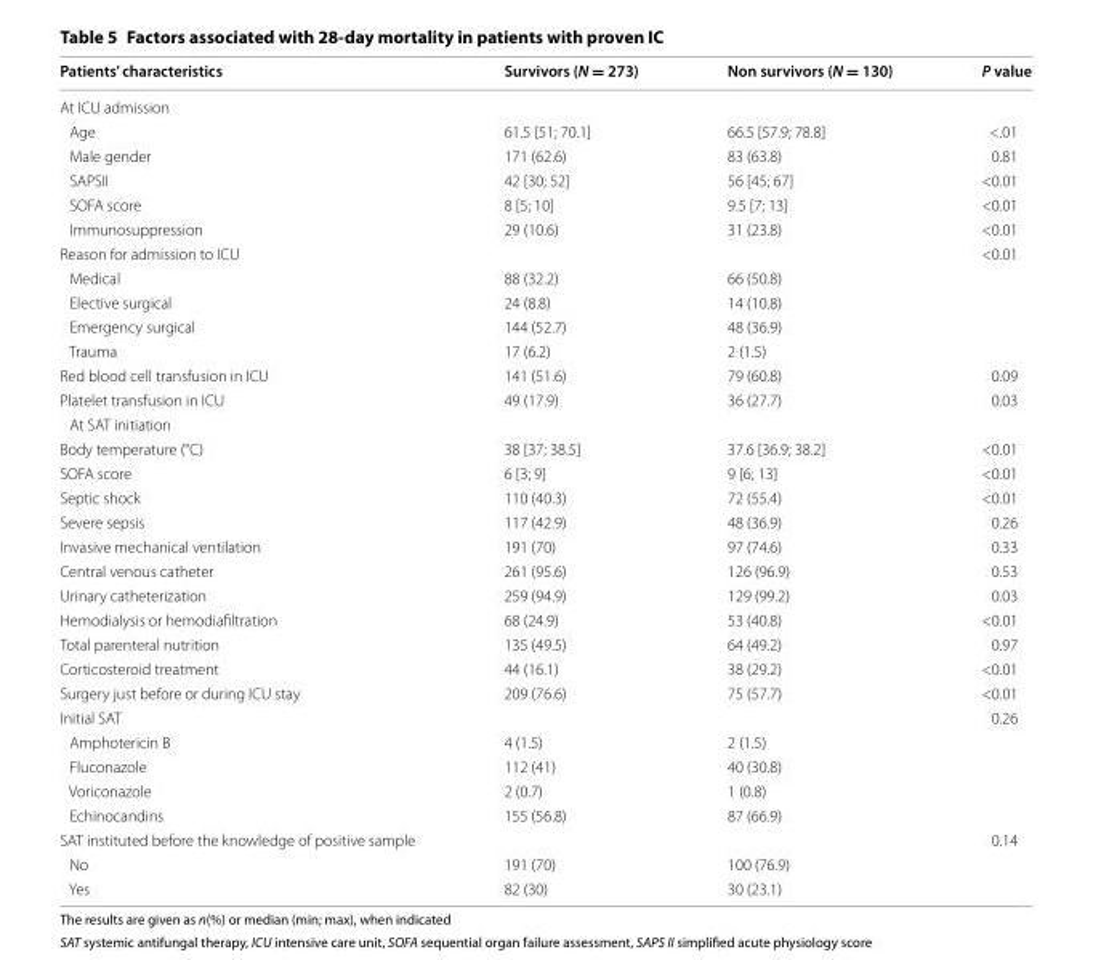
<table><thead><tr><td>Patients’ characteristics</td><td>Survivors (N = 273)</td><td>Non survivors (N = 130)</td><td>P value</td></tr></thead><tbody><tr><td colspan="4">At ICU admission</td></tr><tr><td>Age</td><td>61.5 [51; 70.1]</td><td>66.5 [57.9; 78.8]</td><td>&lt;.01</td></tr><tr><td>Male gender</td><td>171 (62.6)</td><td>83 (63.8)</td><td>0.81</td></tr><tr><td>SAPSII</td><td>42 [30; 52]</td><td>56 [45; 67]</td><td>&lt;0.01</td></tr><tr><td>SOFA score</td><td>8 [5; 10]</td><td>9.5 [7; 13]</td><td>&lt;0.01</td></tr><tr><td>Immunosuppression</td><td>29 (10.6)</td><td>31 (23.8)</td><td>&lt;0.01</td></tr><tr><td>Reason for admission to ICU</td><td></td><td></td><td>&lt;0.01</td></tr><tr><td>Medical</td><td>88 (32.2)</td><td>66 (50.8)</td><td></td></tr><tr><td>Elective surgical</td><td>24 (8.8)</td><td>14 (10.8)</td><td></td></tr><tr><td>Emergency surgical</td><td>144 (52.7)</td><td>48 (36.9)</td><td></td></tr><tr><td>Trauma</td><td>17 (6.2)</td><td>2 (1.5)</td><td></td></tr><tr><td>Red blood cell transfusion in ICU</td><td>141 (51.6)</td><td>79 (60.8)</td><td>0.09</td></tr><tr><td>Platelet transfusion in ICU</td><td>49 (17.9)</td><td>36 (27.7)</td><td>0.03</td></tr><tr><td colspan="4">At SAT initiation</td></tr><tr><td>Body temperature (°C)</td><td>38 [37; 38.5]</td><td>37.6 [36.9; 38.2]</td><td>&lt;0.01</td></tr><tr><td>SOFA score</td><td>6 [3; 9]</td><td>9 [6; 13]</td><td>&lt;0.01</td></tr><tr><td>Septic shock</td><td>110 (40.3)</td><td>72 (55.4)</td><td>&lt;0.01</td></tr><tr><td>Severe sepsis</td><td>117 (42.9)</td><td>48 (36.9)</td><td>0.26</td></tr><tr><td>Invasive mechanical ventilation</td><td>191 (70)</td><td>97 (74.6)</td><td>0.33</td></tr><tr><td>Central venous catheter</td><td>261 (95.6)</td><td>126 (96.9)</td><td>0.53</td></tr><tr><td>Urinary catheterization</td><td>259 (94.9)</td><td>129 (99.2)</td><td>0.03</td></tr><tr><td>Hemodialysis or hemodiafiltration</td><td>68 (24.9)</td><td>53 (40.8)</td><td>&lt;0.01</td></tr><tr><td>Total parenteral nutrition</td><td>135 (49.5)</td><td>64 (49.2)</td><td>0.97</td></tr><tr><td>Corticosteroid treatment</td><td>44 (16.1)</td><td>38 (29.2)</td><td>&lt;0.01</td></tr><tr><td>Surgery just before or during ICU stay</td><td>209 (76.6)</td><td>75 (57.7)</td><td>&lt;0.01</td></tr><tr><td>Initial SAT</td><td></td><td></td><td>0.26</td></tr><tr><td>Amphotericin B</td><td>4 (1.5)</td><td>2 (1.5)</td><td></td></tr><tr><td>Fluconazole</td><td>112 (41)</td><td>40 (30.8)</td><td></td></tr><tr><td>Voriconazole</td><td>2 (0.7)</td><td>1 (0.8)</td><td></td></tr><tr><td>Echinocandins</td><td>155 (56.8)</td><td>87 (66.9)</td><td></td></tr><tr><td>SAT instituted before the knowledge of positive sample</td><td></td><td></td><td>0.14</td></tr><tr><td>No</td><td>191 (70)</td><td>100 (76.9)</td><td></td></tr><tr><td>Yes</td><td>82 (30)</td><td>30 (23.1)</td><td></td></tr></tbody></table>